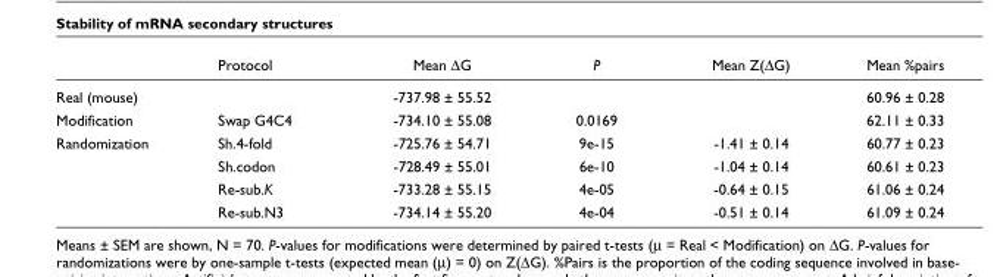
<table><thead><tr><td></td><td>Protocol</td><td>Mean ∆G</td><td>P</td><td>Mean Z(∆G)</td><td>Mean %pairs</td></tr></thead><tbody><tr><td>Real (mouse)</td><td></td><td>-737.98 ± 55.52</td><td></td><td></td><td>60.96 ± 0.28</td></tr><tr><td>Modification</td><td>Swap G4C4</td><td>-734.10 ± 55.08</td><td>0.0169</td><td></td><td>62.11 ± 0.33</td></tr><tr><td rowspan="4">Randomization</td><td>Sh.4-fold</td><td>-725.76 ± 54.71</td><td>9e-15</td><td>-1.41 ± 0.14</td><td>60.77 ± 0.23</td></tr><tr><td>Sh.codon</td><td>-728.49 ± 55.01</td><td>6e-10</td><td>-1.04 ± 0.14</td><td>60.61 ± 0.23</td></tr><tr><td>Re-sub.K</td><td>-733.28 ± 55.15</td><td>4e-05</td><td>-0.64 ± 0.15</td><td>61.06 ± 0.24</td></tr><tr><td>Re-sub.N3</td><td>-734.14 ± 55.20</td><td>4e-04</td><td>-0.51 ± 0.14</td><td>61.09 ± 0.24</td></tr></tbody></table>